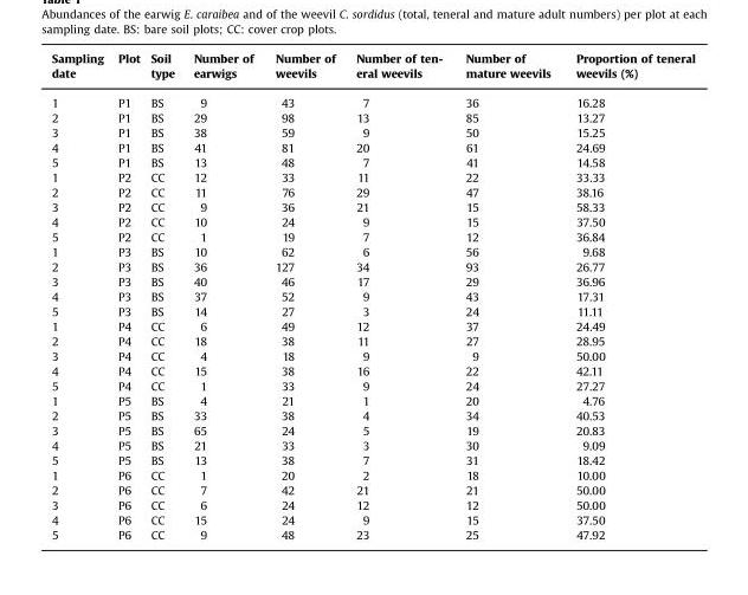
<table><thead><tr><td>Sampling date</td><td>Plot</td><td>Soil type</td><td>Number of earwigs</td><td>Number of weevils</td><td>Number of ten- eral weevils</td><td>Number of mature weevils</td><td>Proportion of teneral weevils (%)</td></tr></thead><tbody><tr><td>1</td><td>P1</td><td>BS</td><td>9</td><td>43</td><td>7</td><td>36</td><td>16.28</td></tr><tr><td>2</td><td>P1</td><td>BS</td><td>29</td><td>98</td><td>13</td><td>85</td><td>13.27</td></tr><tr><td>3</td><td>P1</td><td>BS</td><td>38</td><td>59</td><td>9</td><td>50</td><td>15.25</td></tr><tr><td>4</td><td>P1</td><td>BS</td><td>41</td><td>81</td><td>20</td><td>61</td><td>24.69</td></tr><tr><td>5</td><td>P1</td><td>BS</td><td>13</td><td>48</td><td>7</td><td>41</td><td>14.58</td></tr><tr><td>1</td><td>P2</td><td>CC</td><td>12</td><td>33</td><td>11</td><td>22</td><td>33.33</td></tr><tr><td>2</td><td>P2</td><td>CC</td><td>11</td><td>76</td><td>29</td><td>47</td><td>38.16</td></tr><tr><td>3</td><td>P2</td><td>CC</td><td>9</td><td>36</td><td>21</td><td>15</td><td>58.33</td></tr><tr><td>4</td><td>P2</td><td>CC</td><td>10</td><td>24</td><td>9</td><td>15</td><td>37.50</td></tr><tr><td>5</td><td>P2</td><td>CC</td><td>1</td><td>19</td><td>7</td><td>12</td><td>36.84</td></tr><tr><td>1</td><td>P3</td><td>BS</td><td>10</td><td>62</td><td>6</td><td>56</td><td>9.68</td></tr><tr><td>2</td><td>P3</td><td>BS</td><td>36</td><td>127</td><td>34</td><td>93</td><td>26.77</td></tr><tr><td>3</td><td>P3</td><td>BS</td><td>40</td><td>46</td><td>17</td><td>29</td><td>36.96</td></tr><tr><td>4</td><td>P3</td><td>BS</td><td>37</td><td>52</td><td>9</td><td>43</td><td>17.31</td></tr><tr><td>5</td><td>P3</td><td>BS</td><td>14</td><td>27</td><td>3</td><td>24</td><td>11.11</td></tr><tr><td>1</td><td>P4</td><td>CC</td><td>6</td><td>49</td><td>12</td><td>37</td><td>24.49</td></tr><tr><td>2</td><td>P4</td><td>CC</td><td>18</td><td>38</td><td>11</td><td>27</td><td>28.95</td></tr><tr><td>3</td><td>P4</td><td>CC</td><td>4</td><td>18</td><td>9</td><td>9</td><td>50.00</td></tr><tr><td>4</td><td>P4</td><td>CC</td><td>15</td><td>38</td><td>16</td><td>22</td><td>42.11</td></tr><tr><td>5</td><td>P4</td><td>CC</td><td>1</td><td>33</td><td>9</td><td>24</td><td>27.27</td></tr><tr><td>1</td><td>P5</td><td>BS</td><td>4</td><td>21</td><td>1</td><td>20</td><td>4.76</td></tr><tr><td>2</td><td>P5</td><td>BS</td><td>33</td><td>38</td><td>4</td><td>34</td><td>40.53</td></tr><tr><td>3</td><td>P5</td><td>BS</td><td>65</td><td>24</td><td>5</td><td>19</td><td>20.83</td></tr><tr><td>4</td><td>P5</td><td>BS</td><td>21</td><td>33</td><td>3</td><td>30</td><td>9.09</td></tr><tr><td>5</td><td>P5</td><td>BS</td><td>13</td><td>38</td><td>7</td><td>31</td><td>18.42</td></tr><tr><td>1</td><td>P6</td><td>CC</td><td>1</td><td>20</td><td>2</td><td>18</td><td>10.00</td></tr><tr><td>2</td><td>P6</td><td>CC</td><td>7</td><td>42</td><td>21</td><td>21</td><td>50.00</td></tr><tr><td>3</td><td>P6</td><td>CC</td><td>6</td><td>24</td><td>12</td><td>12</td><td>50.00</td></tr><tr><td>4</td><td>P6</td><td>CC</td><td>15</td><td>24</td><td>9</td><td>15</td><td>37.50</td></tr><tr><td>5</td><td>P6</td><td>CC</td><td>9</td><td>48</td><td>23</td><td>25</td><td>47.92</td></tr></tbody></table>